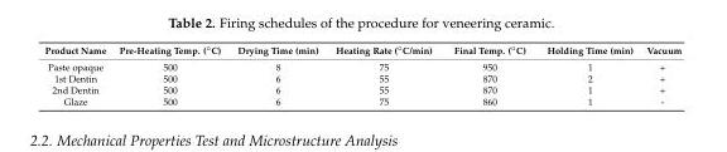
<table><thead><tr><td>Product Name</td><td>Pre-Heating Temp. (◦C)</td><td>Drying Time (min)</td><td>Heating Rate (◦C/min)</td><td>Final Temp. (◦C)</td><td>Holding Time (min)</td><td>Vacuum</td></tr></thead><tbody><tr><td>Paste opaque</td><td>500</td><td>8</td><td>75</td><td>950</td><td>1</td><td>+</td></tr><tr><td>1st Dentin</td><td>500</td><td>6</td><td>55</td><td>870</td><td>2</td><td>+</td></tr><tr><td>2nd Dentin</td><td>500</td><td>6</td><td>55</td><td>870</td><td>1</td><td>+</td></tr><tr><td>Glaze</td><td>500</td><td>6</td><td>75</td><td>860</td><td>1</td><td>-</td></tr></tbody></table>